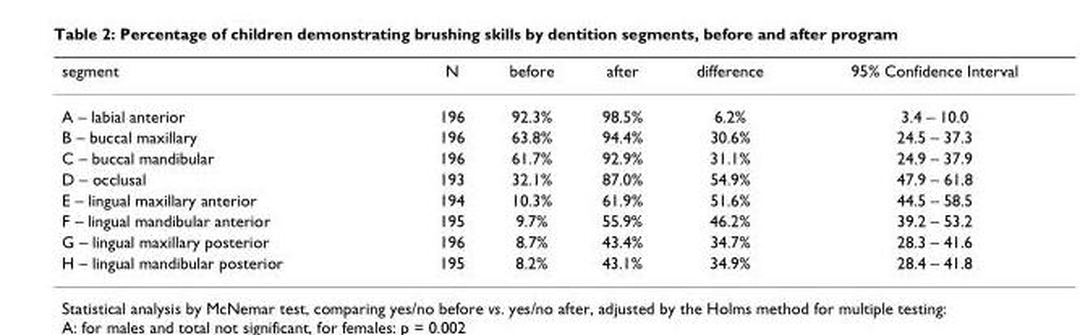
<table><thead><tr><td>segment</td><td>N</td><td>before</td><td>after</td><td>difference</td><td>95% Confidence Interval</td></tr></thead><tbody><tr><td>A – labial anterior</td><td>196</td><td>92.3%</td><td>98.5%</td><td>6.2%</td><td>3.4 – 10.0</td></tr><tr><td>B – buccal maxillary</td><td>196</td><td>63.8%</td><td>94.4%</td><td>30.6%</td><td>24.5 – 37.3</td></tr><tr><td>C – buccal mandibular</td><td>196</td><td>61.7%</td><td>92.9%</td><td>31.1%</td><td>24.9 – 37.9</td></tr><tr><td>D – occlusal</td><td>193</td><td>32.1%</td><td>87.0%</td><td>54.9%</td><td>47.9 – 61.8</td></tr><tr><td>E – lingual maxillary anterior</td><td>194</td><td>10.3%</td><td>61.9%</td><td>51.6%</td><td>44.5 – 58.5</td></tr><tr><td>F – lingual mandibular anterior</td><td>195</td><td>9.7%</td><td>55.9%</td><td>46.2%</td><td>39.2 – 53.2</td></tr><tr><td>G – lingual maxillary posterior</td><td>196</td><td>8.7%</td><td>43.4%</td><td>34.7%</td><td>28.3 – 41.6</td></tr><tr><td>H – lingual mandibular posterior</td><td>195</td><td>8.2%</td><td>43.1%</td><td>34.9%</td><td>28.4 – 41.8</td></tr></tbody></table>